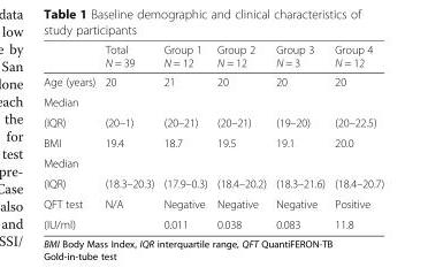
<table><thead><tr><td></td><td>Total N = 39</td><td>Group 1 N = 12</td><td>Group 2 N = 12</td><td>Group 3 N = 3</td><td>Group 4 N = 12</td></tr></thead><tbody><tr><td>Age (years)</td><td>20</td><td>21</td><td>20</td><td>20</td><td>20</td></tr><tr><td colspan="6">Median</td></tr><tr><td>(IQR)</td><td>(20–1)</td><td>(20–21)</td><td>(20–21)</td><td>(19–20)</td><td>(20–22.5)</td></tr><tr><td>BMI</td><td>19.4</td><td>18.7</td><td>19.5</td><td>19.1</td><td>20.0</td></tr><tr><td colspan="6">Median</td></tr><tr><td>(IQR)</td><td>(18.3–20.3)</td><td>(17.9–0.3)</td><td>(18.4–20.2)</td><td>(18.3–21.6)</td><td>(18.4–20.7)</td></tr><tr><td>QFT test</td><td>N/A</td><td>Negative</td><td>Negative</td><td>Negative</td><td>Positive</td></tr><tr><td>(IU/ml)</td><td></td><td>0.011</td><td>0.038</td><td>0.083</td><td>11.8</td></tr></tbody></table>